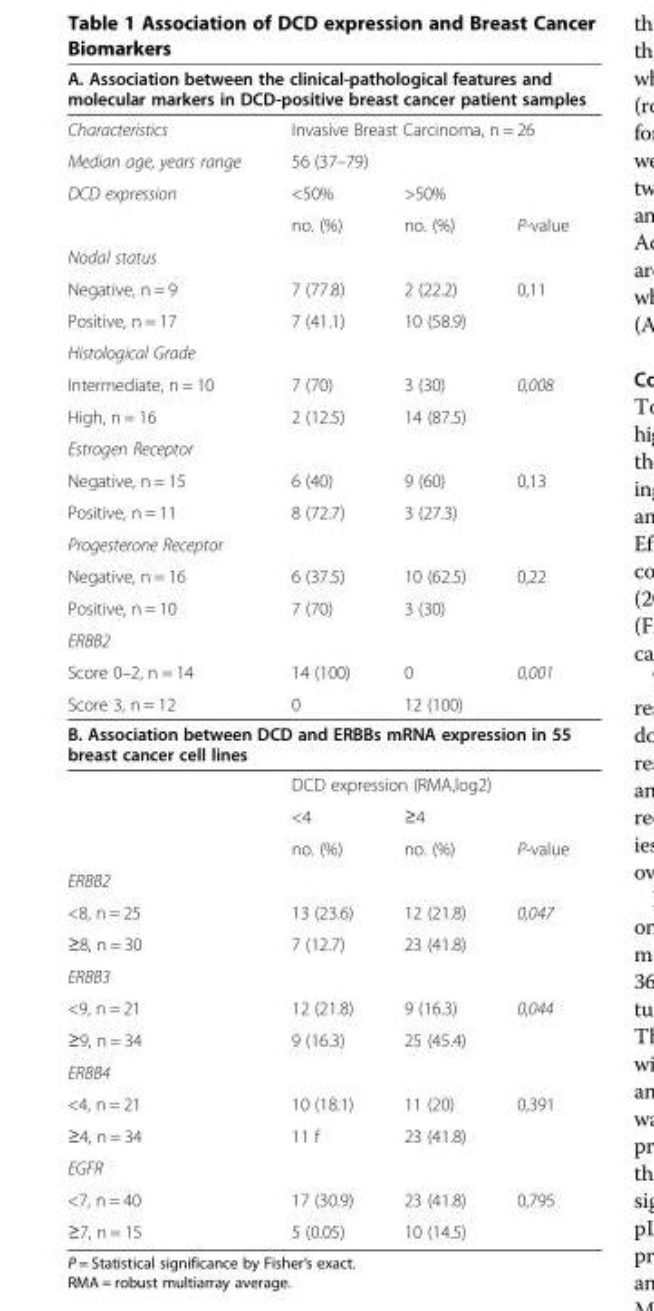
<table><thead><tr><td colspan="4">A. Association between the clinical-pathological features and molecular markers in DCD-positive breast cancer patient samples</td></tr><tr><td rowspan="3">Characteristics Median age, years range DCD expression</td><td colspan="3">Invasive Breast Carcinoma, n = 26</td></tr><tr><td colspan="2">56 (37–79)</td><td rowspan="2"></td></tr><tr><td>&lt;50%</td><td>&gt;50%</td></tr></thead><tbody><tr><td></td><td>no. (%)</td><td>no. (%)</td><td>P-value</td></tr><tr><td colspan="4">Nodal status</td></tr><tr><td>Negative, n = 9</td><td>7 (77.8)</td><td>2 (22.2)</td><td>0,11</td></tr><tr><td>Positive, n = 17</td><td>7 (41.1)</td><td>10 (58.9)</td><td></td></tr><tr><td colspan="4">Histological Grade</td></tr><tr><td>Intermediate, n = 10</td><td>7 (70)</td><td>3 (30)</td><td>0,008</td></tr><tr><td>High, n = 16</td><td>2 (12.5)</td><td>14 (87.5)</td><td></td></tr><tr><td colspan="4">Estrogen Receptor</td></tr><tr><td>Negative, n = 15</td><td>6 (40)</td><td>9 (60)</td><td>0,13</td></tr><tr><td>Positive, n = 11</td><td>8 (72.7)</td><td>3 (27.3)</td><td></td></tr><tr><td colspan="4">Progesterone Receptor</td></tr><tr><td>Negative, n = 16</td><td>6 (37.5)</td><td>10 (62.5)</td><td>0,22</td></tr><tr><td>Positive, n = 10</td><td>7 (70)</td><td>3 (30)</td><td></td></tr><tr><td colspan="4">ERBB2</td></tr><tr><td>Score 0–2, n = 14</td><td>14 (100)</td><td>0</td><td>0,001</td></tr><tr><td>Score 3, n = 12</td><td>0</td><td>12 (100)</td><td></td></tr><tr><td colspan="4">B. Association between DCD and ERBBs mRNA expression in 55 breast cancer cell lines</td></tr><tr><td></td><td colspan="2">DCD expression (RMA,log2)</td><td></td></tr><tr><td></td><td>&lt;4</td><td>≥4</td><td></td></tr><tr><td></td><td>no. (%)</td><td>no. (%)</td><td>P-value</td></tr><tr><td colspan="4">ERBB2</td></tr><tr><td>&lt;8, n = 25</td><td>13 (23.6)</td><td>12 (21.8)</td><td>0,047</td></tr><tr><td>≥8, n = 30</td><td>7 (12.7)</td><td>23 (41.8)</td><td></td></tr><tr><td colspan="4">ERBB3</td></tr><tr><td>&lt;9, n = 21</td><td>12 (21.8)</td><td>9 (16.3)</td><td>0,044</td></tr><tr><td>≥9, n = 34</td><td>9 (16.3)</td><td>25 (45.4)</td><td></td></tr><tr><td colspan="4">ERBB4</td></tr><tr><td>&lt;4, n = 21</td><td>10 (18.1)</td><td>11 (20)</td><td>0,391</td></tr><tr><td>≥4, n = 34</td><td>11 f</td><td>23 (41.8)</td><td></td></tr><tr><td colspan="4">EGFR</td></tr><tr><td>&lt;7, n = 40</td><td>17 (30.9)</td><td>23 (41.8)</td><td>0,795</td></tr><tr><td>≥7, n = 15</td><td>5 (0.05)</td><td>10 (14.5)</td><td></td></tr></tbody></table>